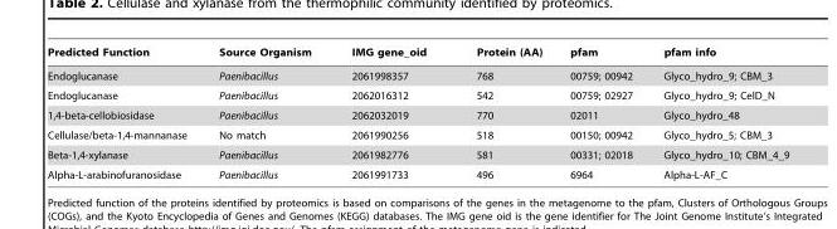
<table><thead><tr><td>Predicted Function</td><td>Source Organism</td><td>IMG gene_oid</td><td>Protein (AA)</td><td>pfam</td><td>pfam info</td></tr></thead><tbody><tr><td>Endoglucanase</td><td>Paenibacillus</td><td>2061998357</td><td>768</td><td>00759; 00942</td><td>Glyco_hydro_9; CBM_3</td></tr><tr><td>Endoglucanase</td><td>Paenibacillus</td><td>2062016312</td><td>542</td><td>00759; 02927</td><td>Glyco_hydro_9; CelD_N</td></tr><tr><td>1,4-beta-cellobiosidase</td><td>Paenibacillus</td><td>2062032019</td><td>770</td><td>02011</td><td>Glyco_hydro_48</td></tr><tr><td>Cellulase/beta-1,4-mannanase</td><td>No match</td><td>2061990256</td><td>518</td><td>00150; 00942</td><td>Glyco_hydro_5; CBM_3</td></tr><tr><td>Beta-1,4-xylanase</td><td>Paenibacillus</td><td>2061982776</td><td>581</td><td>00331; 02018</td><td>Glyco_hydro_10; CBM_4_9</td></tr><tr><td>Alpha-L-arabinofuranosidase</td><td>Paenibacillus</td><td>2061991733</td><td>496</td><td>6964</td><td>Alpha-L-AF_C</td></tr></tbody></table>